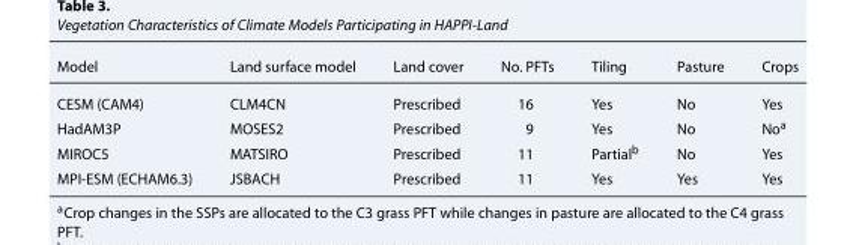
<table><thead><tr><td>Model</td><td>Land surface model</td><td>Land cover</td><td>No. PFTs</td><td>Tiling</td><td>Pasture</td><td>Crops</td></tr></thead><tbody><tr><td>CESM (CAM4)</td><td>CLM4CN</td><td>Prescribed</td><td>16</td><td>Yes</td><td>No</td><td>Yes</td></tr><tr><td>HadAM3P</td><td>MOSES2</td><td>Prescribed</td><td>9</td><td>Yes</td><td>No</td><td>No<sup>a</sup></td></tr><tr><td>MIROC5</td><td>MATSIRO</td><td>Prescribed</td><td>11</td><td>Partial<sup>b</sup></td><td>No</td><td>Yes</td></tr><tr><td>MPI-ESM (ECHAM6.3)</td><td>JSBACH</td><td>Prescribed</td><td>11</td><td>Yes</td><td>Yes</td><td>Yes</td></tr></tbody></table>